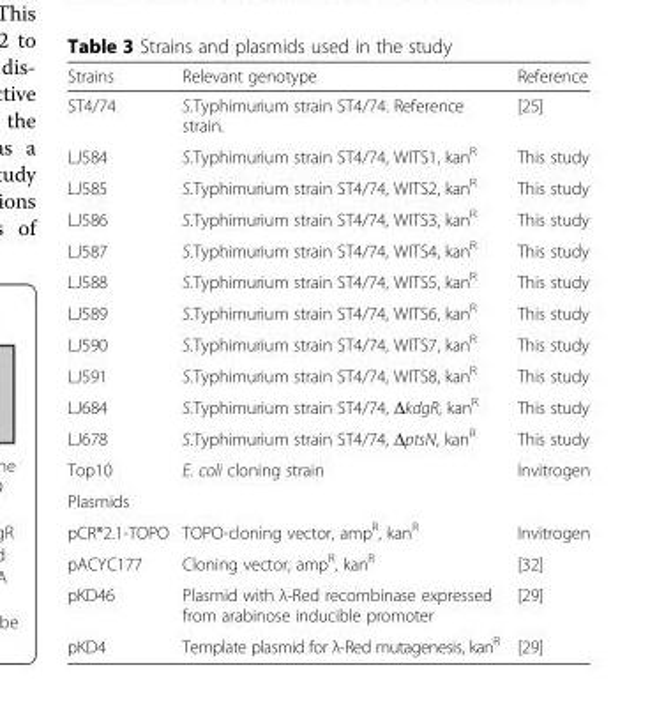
<table><thead><tr><td>Strains</td><td>Relevant genotype</td><td>Reference</td></tr></thead><tbody><tr><td>ST4/74</td><td>S.Typhimurium strain ST4/74. Reference strain.</td><td>[25]</td></tr><tr><td>LJ584</td><td>S.Typhimurium strain ST4/74, WITS1, kan<sup>R</sup></td><td>This study</td></tr><tr><td>LJ585</td><td>S.Typhimurium strain ST4/74, WITS2, kan<sup>R</sup></td><td>This study</td></tr><tr><td>LJ586</td><td>S.Typhimurium strain ST4/74, WITS3, kan<sup>R</sup></td><td>This study</td></tr><tr><td>LJ587</td><td>S.Typhimurium strain ST4/74, WITS4, kan<sup>R</sup></td><td>This study</td></tr><tr><td>LJ588</td><td>S.Typhimurium strain ST4/74, WITS5, kan<sup>R</sup></td><td>This study</td></tr><tr><td>LJ589</td><td>S.Typhimurium strain ST4/74, WITS6, kan<sup>R</sup></td><td>This study</td></tr><tr><td>LJ590</td><td>S.Typhimurium strain ST4/74, WITS7, kan<sup>R</sup></td><td>This study</td></tr><tr><td>LJ591</td><td>S.Typhimurium strain ST4/74, WITS8, kan<sup>R</sup></td><td>This study</td></tr><tr><td>LJ684</td><td>S.Typhimurium strain ST4/74, ΔkdgR, kan<sup>R</sup></td><td>This study</td></tr><tr><td>LJ678</td><td>S.Typhimurium strain ST4/74, ΔptsN, kan<sup>R</sup></td><td>This study</td></tr><tr><td>Top10</td><td>E. coli cloning strain</td><td>Invitrogen</td></tr><tr><td colspan="3">Plasmids</td></tr><tr><td>pCR®2.1-TOPO</td><td>TOPO-cloning vector, amp<sup>R</sup>, kan<sup>R</sup></td><td>Invitrogen</td></tr><tr><td>pACYC177</td><td>Cloning vector, amp<sup>R</sup>, kan<sup>R</sup></td><td>[32]</td></tr><tr><td>pKD46</td><td>Plasmid with λ-Red recombinase expressed from arabinose inducible promoter</td><td>[29]</td></tr><tr><td>pKD4</td><td>Template plasmid for λ-Red mutagenesis, kan<sup>R</sup></td><td>[29]</td></tr></tbody></table>